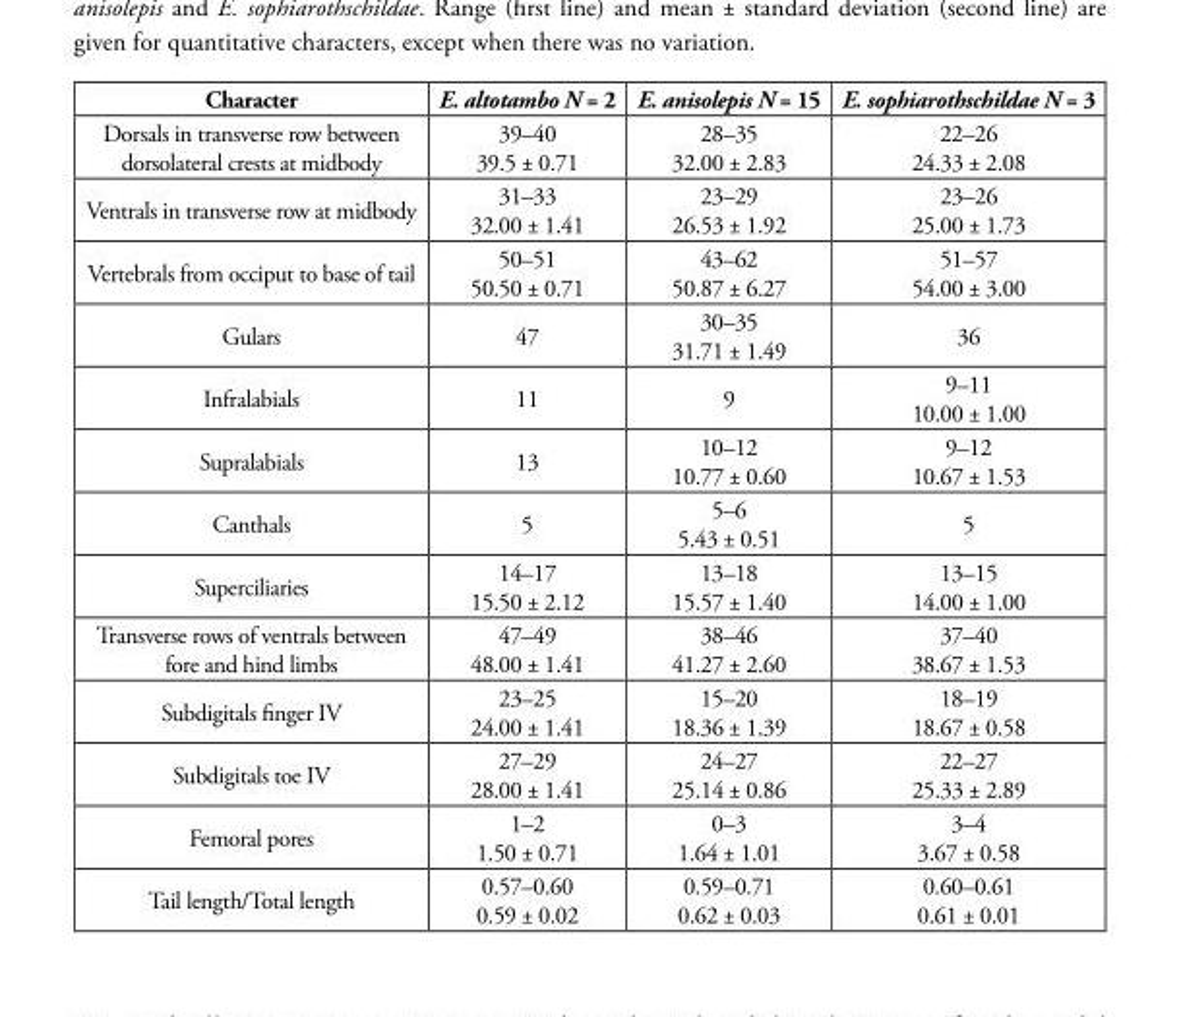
<table><thead><tr><td>Character</td><td>E. altotambo N = 2</td><td>E. anisolepis N = 15</td><td>E. sophiarothschildae N = 3</td></tr></thead><tbody><tr><td>Dorsals in transverse row between dorsolateral crests at midbody</td><td>39–40 39.5 ± 0.71</td><td>28–35 32.00 ± 2.83</td><td>22–26 24.33 ± 2.08</td></tr><tr><td>Ventrals in transverse row at midbody</td><td>31–33 32.00 ± 1.41</td><td>23–29 26.53 ± 1.92</td><td>23–26 25.00 ± 1.73</td></tr><tr><td>Vertebrals from occiput to base of tail</td><td>50–51 50.50 ± 0.71</td><td>43–62 50.87 ± 6.27</td><td>51–57 54.00 ± 3.00</td></tr><tr><td>Gulars</td><td>47</td><td>30–35 31.71 ± 1.49</td><td>36</td></tr><tr><td>Infralabials</td><td>11</td><td>9</td><td>9–11 10.00 ± 1.00</td></tr><tr><td>Supralabials</td><td>13</td><td>10–12 10.77 ± 0.60</td><td>9–12 10.67 ± 1.53</td></tr><tr><td>Canthals</td><td>5</td><td>5–6 5.43 ± 0.51</td><td>5</td></tr><tr><td>Superciliaries</td><td>14–17 15.50 ± 2.12</td><td>13–18 15.57 ± 1.40</td><td>13–15 14.00 ± 1.00</td></tr><tr><td>Transverse rows of ventrals between fore and hind limbs</td><td>47–49 48.00 ± 1.41</td><td>38–46 41.27 ± 2.60</td><td>37–40 38.67 ± 1.53</td></tr><tr><td>Subdigitals finger IV</td><td>23–25 24.00 ± 1.41</td><td>15–20 18.36 ± 1.39</td><td>18–19 18.67 ± 0.58</td></tr><tr><td>Subdigitals toe IV</td><td>27–29 28.00 ± 1.41</td><td>24–27 25.14 ± 0.86</td><td>22–27 25.33 ± 2.89</td></tr><tr><td>Femoral pores</td><td>1–2 1.50 ± 0.71</td><td>0–3 1.64 ± 1.01</td><td>3–4 3.67 ± 0.58</td></tr><tr><td>Tail length/Total length</td><td>0.57–0.60 0.59 ± 0.02</td><td>0.59–0.71 0.62 ± 0.03</td><td>0.60–0.61 0.61 ± 0.01</td></tr></tbody></table>